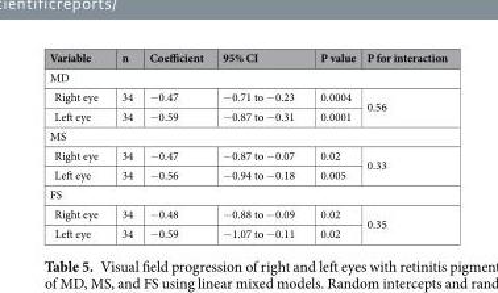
<table><thead><tr><td>Variable</td><td>n</td><td>Coefficient</td><td>95% CI</td><td>P value</td><td>P for interaction</td></tr></thead><tbody><tr><td colspan="6">MD</td></tr><tr><td>Right eye</td><td>34</td><td>−0.47</td><td>−0.71 to −0.23</td><td>0.0004</td><td rowspan="2">0.56</td></tr><tr><td>Left eye</td><td>34</td><td>−0.59</td><td>−0.87 to −0.31</td><td>0.0001</td></tr><tr><td colspan="6">MS</td></tr><tr><td>Right eye</td><td>34</td><td>−0.47</td><td>−0.87 to −0.07</td><td>0.02</td><td rowspan="2">0.33</td></tr><tr><td>Left eye</td><td>34</td><td>−0.56</td><td>−0.94 to −0.18</td><td>0.005</td></tr><tr><td colspan="6">FS</td></tr><tr><td>Right eye</td><td>34</td><td>−0.48</td><td>−0.88 to −0.09</td><td>0.02</td><td rowspan="2">0.35</td></tr><tr><td>Left eye</td><td>34</td><td>−0.59</td><td>−1.07 to −0.11</td><td>0.02</td></tr></tbody></table>